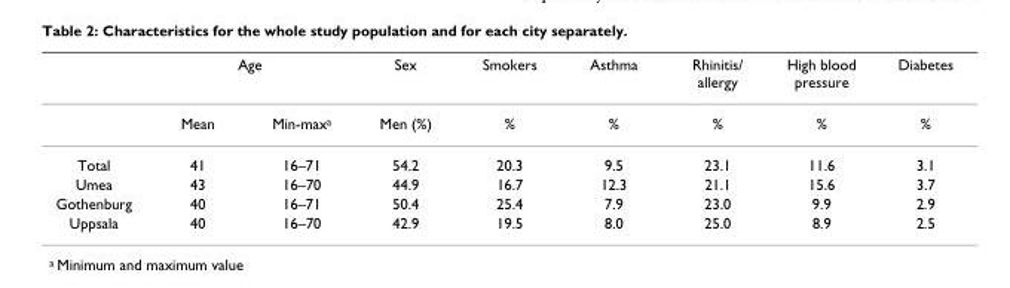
<table><thead><tr><td rowspan="2"></td><td colspan="2">Age</td><td rowspan="2">Sex Men (%)</td><td rowspan="2">Smokers %</td><td rowspan="2">Asthma %</td><td rowspan="2">Rhinitis/ allergy %</td><td rowspan="2">High blood pressure %</td><td rowspan="2">Diabetes %</td></tr><tr><td>Mean</td><td>Min-maxa</td></tr></thead><tbody><tr><td>Total</td><td>41</td><td>16–71</td><td>54.2</td><td>20.3</td><td>9.5</td><td>23.1</td><td>11.6</td><td>3.1</td></tr><tr><td>Umea</td><td>43</td><td>16–70</td><td>44.9</td><td>16.7</td><td>12.3</td><td>21.1</td><td>15.6</td><td>3.7</td></tr><tr><td>Gothenburg</td><td>40</td><td>16–71</td><td>50.4</td><td>25.4</td><td>7.9</td><td>23.0</td><td>9.9</td><td>2.9</td></tr><tr><td>Uppsala</td><td>40</td><td>16–70</td><td>42.9</td><td>19.5</td><td>8.0</td><td>25.0</td><td>8.9</td><td>2.5</td></tr></tbody></table>